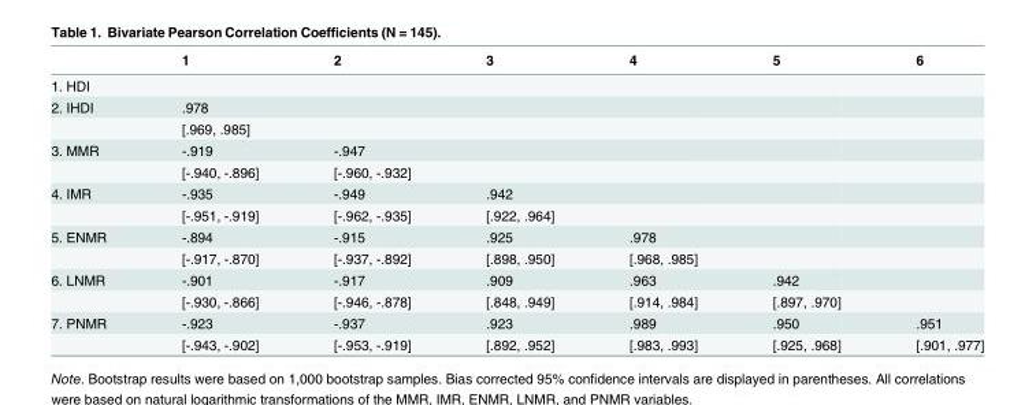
<table><thead><tr><td></td><td>1</td><td>2</td><td>3</td><td>4</td><td>5</td><td>6</td></tr></thead><tbody><tr><td colspan="7">1. HDI</td></tr><tr><td rowspan="2">2. IHDI</td><td>.978</td><td></td><td></td><td></td><td></td><td></td></tr><tr><td>[.969, .985]</td><td></td><td></td><td></td><td></td><td></td></tr><tr><td rowspan="2">3. MMR</td><td>-.919</td><td>-.947</td><td></td><td></td><td></td><td></td></tr><tr><td>[-.940, -.896]</td><td>[-.960, -.932]</td><td></td><td></td><td></td><td></td></tr><tr><td rowspan="2">4. IMR</td><td>-.935</td><td>-.949</td><td>.942</td><td></td><td></td><td></td></tr><tr><td>[-.951, -.919]</td><td>[-.962, -.935]</td><td>[.922, .964]</td><td></td><td></td><td></td></tr><tr><td rowspan="2">5. ENMR</td><td>-.894</td><td>-.915</td><td>.925</td><td>.978</td><td></td><td></td></tr><tr><td>[-.917, -.870]</td><td>[-.937, -.892]</td><td>[.898, .950]</td><td>[.968, .985]</td><td></td><td></td></tr><tr><td rowspan="2">6. LNMR</td><td>-.901</td><td>-.917</td><td>.909</td><td>.963</td><td>.942</td><td></td></tr><tr><td>[-.930, -.866]</td><td>[-.946, -.878]</td><td>[.848, .949]</td><td>[.914, .984]</td><td>[.897, .970]</td><td></td></tr><tr><td rowspan="2">7. PNMR</td><td>-.923</td><td>-.937</td><td>.923</td><td>.989</td><td>.950</td><td>.951</td></tr><tr><td>[-.943, -.902]</td><td>[-.953, -.919]</td><td>[.892, .952]</td><td>[.983, .993]</td><td>[.925, .968]</td><td>[.901, .977]</td></tr></tbody></table>